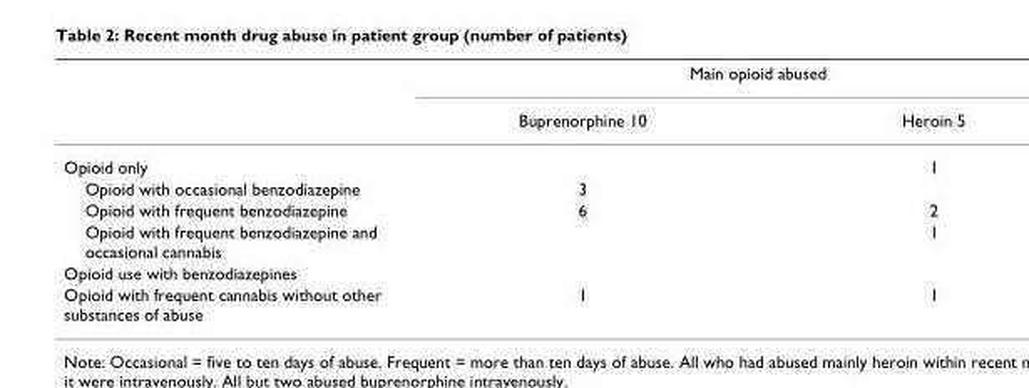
<table><thead><tr><td rowspan="2"></td><td colspan="2">Main opioid abused</td></tr><tr><td>Buprenorphine 10</td><td>Heroin 5</td></tr></thead><tbody><tr><td>Opioid only</td><td></td><td>1</td></tr><tr><td>Opioid with occasional benzodiazepine</td><td>3</td><td></td></tr><tr><td>Opioid with frequent benzodiazepine</td><td>6</td><td>2</td></tr><tr><td>Opioid with frequent benzodiazepine and occasional cannabis</td><td></td><td>1</td></tr><tr><td colspan="3">Opioid use with benzodiazepines</td></tr><tr><td>Opioid with frequent cannabis without other substances of abuse</td><td>1</td><td>1</td></tr></tbody></table>